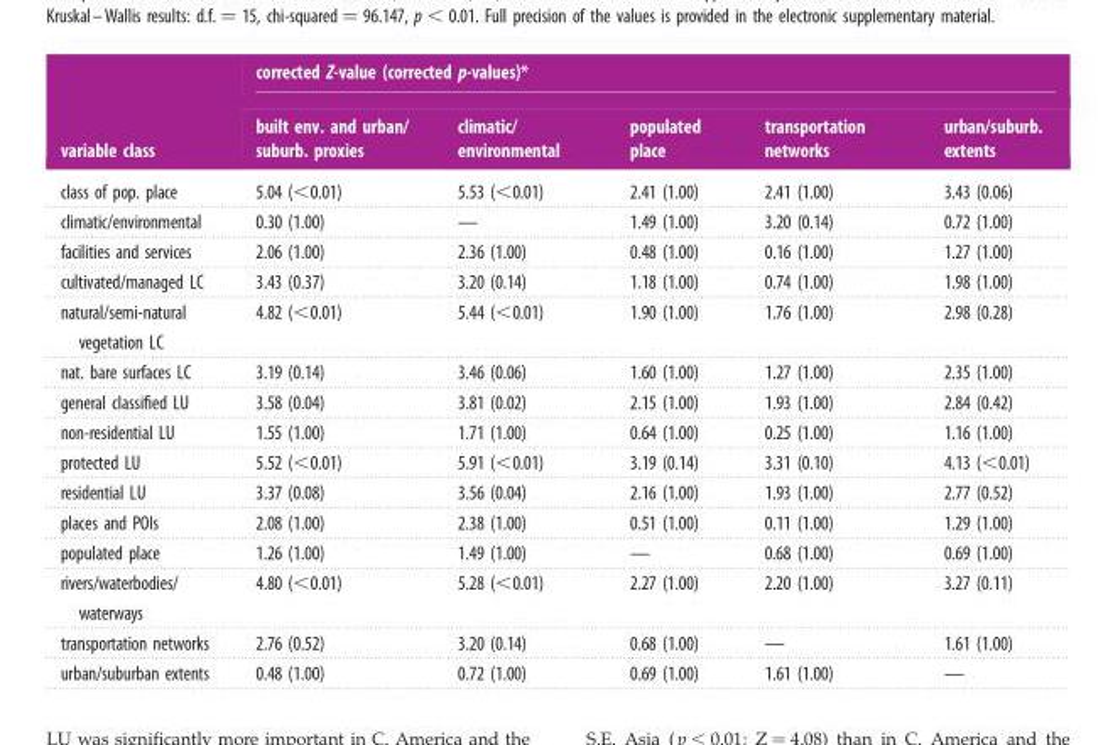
<table><thead><tr><td rowspan="2">variable class</td><td colspan="5">corrected Z-value (corrected p-values)*</td></tr><tr><td>built env. and urban/ suburb. proxies</td><td>climatic/ environmental</td><td>populated place</td><td>transportation networks</td><td>urban/suburb. extents</td></tr></thead><tbody><tr><td>class of pop. place</td><td>5.04 (&lt;0.01)</td><td>5.53 (&lt;0.01)</td><td>2.41 (1.00)</td><td>2.41 (1.00)</td><td>3.43 (0.06)</td></tr><tr><td>climatic/environmental</td><td>0.30 (1.00)</td><td>—</td><td>1.49 (1.00)</td><td>3.20 (0.14)</td><td>0.72 (1.00)</td></tr><tr><td>facilities and services</td><td>2.06 (1.00)</td><td>2.36 (1.00)</td><td>0.48 (1.00)</td><td>0.16 (1.00)</td><td>1.27 (1.00)</td></tr><tr><td>cultivated/managed LC</td><td>3.43 (0.37)</td><td>3.20 (0.14)</td><td>1.18 (1.00)</td><td>0.74 (1.00)</td><td>1.98 (1.00)</td></tr><tr><td>natural/semi-natural vegetation LC</td><td>4.82 (&lt;0.01)</td><td>5.44 (&lt;0.01)</td><td>1.90 (1.00)</td><td>1.76 (1.00)</td><td>2.98 (0.28)</td></tr><tr><td>nat. bare surfaces LC</td><td>3.19 (0.14)</td><td>3.46 (0.06)</td><td>1.60 (1.00)</td><td>1.27 (1.00)</td><td>2.35 (1.00)</td></tr><tr><td>general classified LU</td><td>3.58 (0.04)</td><td>3.81 (0.02)</td><td>2.15 (1.00)</td><td>1.93 (1.00)</td><td>2.84 (0.42)</td></tr><tr><td>non-residential LU</td><td>1.55 (1.00)</td><td>1.71 (1.00)</td><td>0.64 (1.00)</td><td>0.25 (1.00)</td><td>1.16 (1.00)</td></tr><tr><td>protected LU</td><td>5.52 (&lt;0.01)</td><td>5.91 (&lt;0.01)</td><td>3.19 (0.14)</td><td>3.31 (0.10)</td><td>4.13 (&lt;0.01)</td></tr><tr><td>residential LU</td><td>3.37 (0.08)</td><td>3.56 (0.04)</td><td>2.16 (1.00)</td><td>1.93 (1.00)</td><td>2.77 (0.52)</td></tr><tr><td>places and POIs</td><td>2.08 (1.00)</td><td>2.38 (1.00)</td><td>0.51 (1.00)</td><td>0.11 (1.00)</td><td>1.29 (1.00)</td></tr><tr><td>populated place</td><td>1.26 (1.00)</td><td>1.49 (1.00)</td><td>—</td><td>0.68 (1.00)</td><td>0.69 (1.00)</td></tr><tr><td>rivers/waterbodies/ waterways</td><td>4.80 (&lt;0.01)</td><td>5.28 (&lt;0.01)</td><td>2.27 (1.00)</td><td>2.20 (1.00)</td><td>3.27 (0.11)</td></tr><tr><td>transportation networks</td><td>2.76 (0.52)</td><td>3.20 (0.14)</td><td>0.68 (1.00)</td><td>—</td><td>1.61 (1.00)</td></tr><tr><td>urban/suburban extents</td><td>0.48 (1.00)</td><td>0.72 (1.00)</td><td>0.69 (1.00)</td><td>1.61 (1.00)</td><td>—</td></tr></tbody></table>